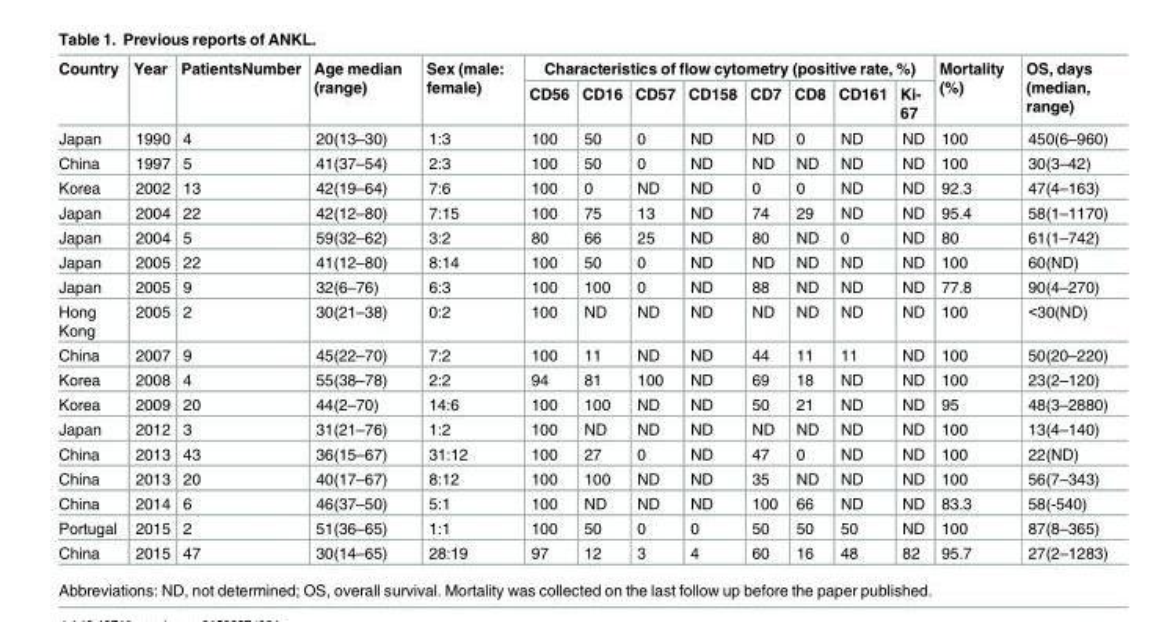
<table><thead><tr><td rowspan="2">Country</td><td rowspan="2">Year</td><td rowspan="2">PatientsNumber</td><td rowspan="2">Age median (range)</td><td rowspan="2">Sex (male: female)</td><td colspan="8">Characteristics of flow cytometry (positive rate, %)</td><td rowspan="2">Mortality (%)</td><td rowspan="2">OS, days (median, range)</td></tr><tr><td>CD56</td><td>CD16</td><td>CD57</td><td>CD158</td><td>CD7</td><td>CD8</td><td>CD161</td><td>Ki- 67</td></tr></thead><tbody><tr><td>Japan</td><td>1990</td><td>4</td><td>20(13–30)</td><td>1:3</td><td>100</td><td>50</td><td>0</td><td>ND</td><td>ND</td><td>0</td><td>ND</td><td>ND</td><td>100</td><td>450(6–960)</td></tr><tr><td>China</td><td>1997</td><td>5</td><td>41(37–54)</td><td>2:3</td><td>100</td><td>50</td><td>0</td><td>ND</td><td>ND</td><td>ND</td><td>ND</td><td>ND</td><td>100</td><td>30(3–42)</td></tr><tr><td>Korea</td><td>2002</td><td>13</td><td>42(19–64)</td><td>7:6</td><td>100</td><td>0</td><td>ND</td><td>ND</td><td>0</td><td>0</td><td>ND</td><td>ND</td><td>92.3</td><td>47(4–163)</td></tr><tr><td>Japan</td><td>2004</td><td>22</td><td>42(12–80)</td><td>7:15</td><td>100</td><td>75</td><td>13</td><td>ND</td><td>74</td><td>29</td><td>ND</td><td>ND</td><td>95.4</td><td>58(1–1170)</td></tr><tr><td>Japan</td><td>2004</td><td>5</td><td>59(32–62)</td><td>3:2</td><td>80</td><td>66</td><td>25</td><td>ND</td><td>80</td><td>ND</td><td>0</td><td>ND</td><td>80</td><td>61(1–742)</td></tr><tr><td>Japan</td><td>2005</td><td>22</td><td>41(12–80)</td><td>8:14</td><td>100</td><td>50</td><td>0</td><td>ND</td><td>ND</td><td>ND</td><td>ND</td><td>ND</td><td>100</td><td>60(ND)</td></tr><tr><td>Japan</td><td>2005</td><td>9</td><td>32(6–76)</td><td>6:3</td><td>100</td><td>100</td><td>0</td><td>ND</td><td>88</td><td>ND</td><td>ND</td><td>ND</td><td>77.8</td><td>90(4–270)</td></tr><tr><td>Hong Kong</td><td>2005</td><td>2</td><td>30(21–38)</td><td>0:2</td><td>100</td><td>ND</td><td>ND</td><td>ND</td><td>ND</td><td>ND</td><td>ND</td><td>ND</td><td>100</td><td>&lt;30(ND)</td></tr><tr><td>China</td><td>2007</td><td>9</td><td>45(22–70)</td><td>7:2</td><td>100</td><td>11</td><td>ND</td><td>ND</td><td>44</td><td>11</td><td>11</td><td>ND</td><td>100</td><td>50(20–220)</td></tr><tr><td>Korea</td><td>2008</td><td>4</td><td>55(38–78)</td><td>2:2</td><td>94</td><td>81</td><td>100</td><td>ND</td><td>69</td><td>18</td><td>ND</td><td>ND</td><td>100</td><td>23(2–120)</td></tr><tr><td>Korea</td><td>2009</td><td>20</td><td>44(2–70)</td><td>14:6</td><td>100</td><td>100</td><td>ND</td><td>ND</td><td>50</td><td>21</td><td>ND</td><td>ND</td><td>95</td><td>48(3–2880)</td></tr><tr><td>Japan</td><td>2012</td><td>3</td><td>31(21–76)</td><td>1:2</td><td>100</td><td>ND</td><td>ND</td><td>ND</td><td>ND</td><td>ND</td><td>ND</td><td>ND</td><td>100</td><td>13(4–140)</td></tr><tr><td>China</td><td>2013</td><td>43</td><td>36(15–67)</td><td>31:12</td><td>100</td><td>27</td><td>0</td><td>ND</td><td>47</td><td>0</td><td>ND</td><td>ND</td><td>100</td><td>22(ND)</td></tr><tr><td>China</td><td>2013</td><td>20</td><td>40(17–67)</td><td>8:12</td><td>100</td><td>100</td><td>ND</td><td>ND</td><td>35</td><td>ND</td><td>ND</td><td>ND</td><td>100</td><td>56(7–343)</td></tr><tr><td>China</td><td>2014</td><td>6</td><td>46(37–50)</td><td>5:1</td><td>100</td><td>ND</td><td>ND</td><td>ND</td><td>100</td><td>66</td><td>ND</td><td>ND</td><td>83.3</td><td>58(-540)</td></tr><tr><td>Portugal</td><td>2015</td><td>2</td><td>51(36–65)</td><td>1:1</td><td>100</td><td>50</td><td>0</td><td>0</td><td>50</td><td>50</td><td>50</td><td>ND</td><td>100</td><td>87(8–365)</td></tr><tr><td>China</td><td>2015</td><td>47</td><td>30(14–65)</td><td>28:19</td><td>97</td><td>12</td><td>3</td><td>4</td><td>60</td><td>16</td><td>48</td><td>82</td><td>95.7</td><td>27(2–1283)</td></tr></tbody></table>